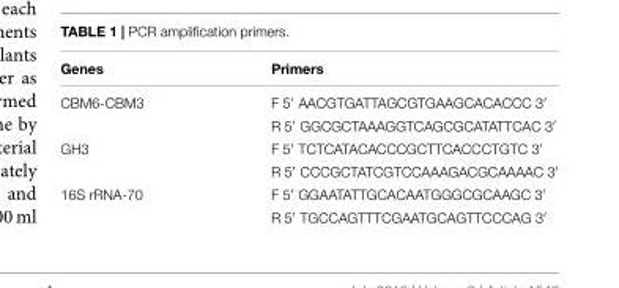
<table><thead><tr><td>Genes</td><td>Primers</td></tr></thead><tbody><tr><td rowspan="2">CBM6-CBM3</td><td>F 5′ AACGTGATTAGCGTGAAGCACACCC 3′</td></tr><tr><td>R 5′ GGCGCTAAAGGTCAGCGCATATTCAC 3′</td></tr><tr><td rowspan="2">GH3</td><td>F 5′ TCTCATACACCCGCTTCACCCTGTC 3′</td></tr><tr><td>R 5′ CCCGCTATCGTCCAAAGACGCAAAAC 3′</td></tr><tr><td rowspan="2">16S rRNA-70</td><td>F 5′ GGAATATTGCACAATGGGCGCAAGC 3′</td></tr><tr><td>R 5′ TGCCAGTTTCGAATGCAGTTCCCAG 3′</td></tr></tbody></table>